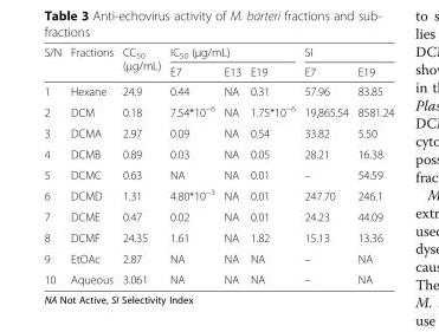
<table><thead><tr><td rowspan="2">S/N</td><td rowspan="2">Fractions</td><td rowspan="2">CC<sub>50</sub> (μg/mL)</td><td colspan="3">IC<sub>50</sub> (μg/mL)</td><td colspan="2">SI</td></tr><tr><td>E7</td><td>E13</td><td>E19</td><td>E7</td><td>E19</td></tr></thead><tbody><tr><td>1</td><td>Hexane</td><td>24.9</td><td>0.44</td><td>NA</td><td>0.31</td><td>57.96</td><td>83.85</td></tr><tr><td>2</td><td>DCM</td><td>0.18</td><td>7.54*10<sup>−6</sup></td><td>NA</td><td>1.75*10<sup>−6</sup></td><td>19,865.54</td><td>8581.24</td></tr><tr><td>3</td><td>DCMA</td><td>2.97</td><td>0.09</td><td>NA</td><td>0.54</td><td>33.82</td><td>5.50</td></tr><tr><td>4</td><td>DCMB</td><td>0.89</td><td>0.03</td><td>NA</td><td>0.05</td><td>28.21</td><td>16.38</td></tr><tr><td>5</td><td>DCMC</td><td>0.63</td><td>NA</td><td>NA</td><td>0.01</td><td>–</td><td>54.59</td></tr><tr><td>6</td><td>DCMD</td><td>1.31</td><td>4.80*10<sup>−3</sup></td><td>NA</td><td>0.01</td><td>247.70</td><td>246.1</td></tr><tr><td>7</td><td>DCME</td><td>0.47</td><td>0.02</td><td>NA</td><td>0.01</td><td>24.23</td><td>44.09</td></tr><tr><td>8</td><td>DCMF</td><td>24.35</td><td>1.61</td><td>NA</td><td>1.82</td><td>15.13</td><td>13.36</td></tr><tr><td>9</td><td>EtOAc</td><td>2.87</td><td>NA</td><td>NA</td><td>NA</td><td>–</td><td>NA</td></tr><tr><td>10</td><td>Aqueous</td><td>3.061</td><td>NA</td><td>NA</td><td>NA</td><td>–</td><td>NA</td></tr></tbody></table>